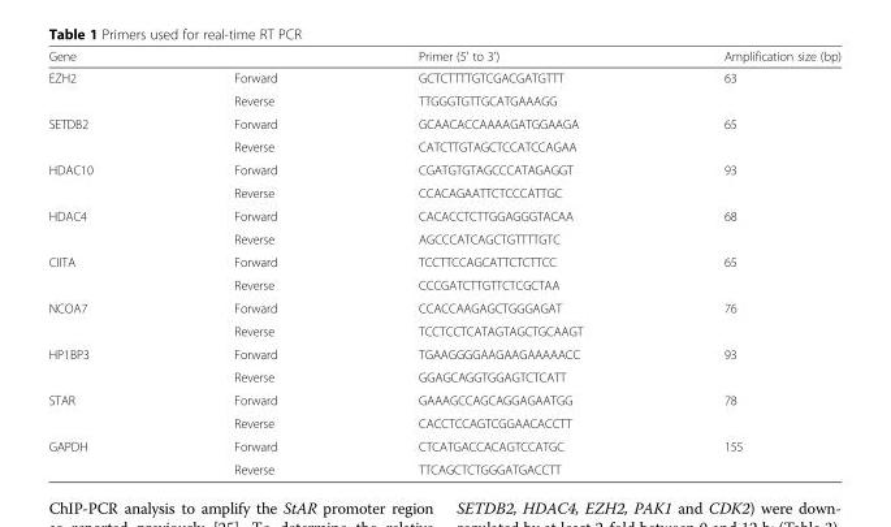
<table><thead><tr><td>Gene</td><td></td><td>Primer (5&#x27; to 3&#x27;)</td><td>Amplification size (bp)</td></tr></thead><tbody><tr><td rowspan="2">EZH2</td><td>Forward</td><td>GCTCTTTTGTCGACGATGTTT</td><td rowspan="2">63</td></tr><tr><td>Reverse</td><td>TTGGGTGTTGCATGAAAGG</td></tr><tr><td rowspan="2">SETDB2</td><td>Forward</td><td>GCAACACCAAAAGATGGAAGA</td><td rowspan="2">65</td></tr><tr><td>Reverse</td><td>CATCTTGTAGCTCCATCCAGAA</td></tr><tr><td rowspan="2">HDAC10</td><td>Forward</td><td>CGATGTGTAGCCCATAGAGGT</td><td rowspan="2">93</td></tr><tr><td>Reverse</td><td>CCACAGAATTCTCCCATTGC</td></tr><tr><td rowspan="2">HDAC4</td><td>Forward</td><td>CACACCTCTTGGAGGGTACAA</td><td rowspan="2">68</td></tr><tr><td>Reverse</td><td>AGCCCATCAGCTGTTTTGTC</td></tr><tr><td rowspan="2">CIITA</td><td>Forward</td><td>TCCTTCCAGCATTCTCTTCC</td><td rowspan="2">65</td></tr><tr><td>Reverse</td><td>CCCGATCTTGTTCTCGCTAA</td></tr><tr><td rowspan="2">NCOA7</td><td>Forward</td><td>CCACCAAGAGCTGGGAGAT</td><td rowspan="2">76</td></tr><tr><td>Reverse</td><td>TCCTCCTCATAGTAGCTGCAAGT</td></tr><tr><td rowspan="2">HP1BP3</td><td>Forward</td><td>TGAAGGGGAAGAAGAAAAACC</td><td rowspan="2">93</td></tr><tr><td>Reverse</td><td>GGAGCAGGTGGAGTCTCATT</td></tr><tr><td rowspan="2">STAR</td><td>Forward</td><td>GAAAGCCAGCAGGAGAATGG</td><td rowspan="2">78</td></tr><tr><td>Reverse</td><td>CACCTCCAGTCGGAACACCTT</td></tr><tr><td rowspan="2">GAPDH</td><td>Forward</td><td>CTCATGACCACAGTCCATGC</td><td rowspan="2">155</td></tr><tr><td>Reverse</td><td>TTCAGCTCTGGGATGACCTT</td></tr></tbody></table>